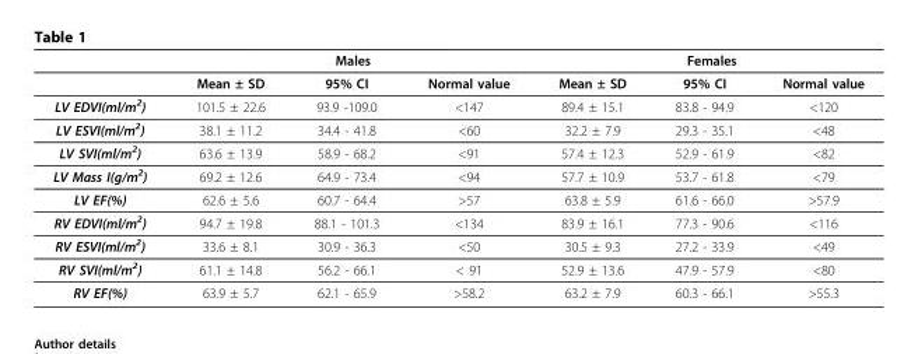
<table><thead><tr><td rowspan="2"></td><td colspan="3">Males</td><td colspan="3">Females</td></tr><tr><td>Mean ± SD</td><td>95% CI</td><td>Normal value</td><td>Mean ± SD</td><td>95% CI</td><td>Normal value</td></tr></thead><tbody><tr><td>LV EDVI(ml/m<sup>2</sup>)</td><td>101.5 ± 22.6</td><td>93.9 -109.0</td><td>&lt;147</td><td>89.4 ± 15.1</td><td>83.8 - 94.9</td><td>&lt;120</td></tr><tr><td>LV ESVI(ml/m<sup>2</sup>)</td><td>38.1 ± 11.2</td><td>34.4 - 41.8</td><td>&lt;60</td><td>32.2 ± 7.9</td><td>29.3 - 35.1</td><td>&lt;48</td></tr><tr><td>LV SVI(ml/m<sup>2</sup>)</td><td>63.6 ± 13.9</td><td>58.9 - 68.2</td><td>&lt;91</td><td>57.4 ± 12.3</td><td>52.9 - 61.9</td><td>&lt;82</td></tr><tr><td>LV Mass I(g/m<sup>2</sup>)</td><td>69.2 ± 12.6</td><td>64.9 - 73.4</td><td>&lt;94</td><td>57.7 ± 10.9</td><td>53.7 - 61.8</td><td>&lt;79</td></tr><tr><td>LV EF(%)</td><td>62.6 ± 5.6</td><td>60.7 - 64.4</td><td>&gt;57</td><td>63.8 ± 5.9</td><td>61.6 - 66.0</td><td>&gt;57.9</td></tr><tr><td>RV EDVI(ml/m<sup>2</sup>)</td><td>94.7 ± 19.8</td><td>88.1 - 101.3</td><td>&lt;134</td><td>83.9 ± 16.1</td><td>77.3 - 90.6</td><td>&lt;116</td></tr><tr><td>RV ESVI(ml/m<sup>2</sup>)</td><td>33.6 ± 8.1</td><td>30.9 - 36.3</td><td>&lt;50</td><td>30.5 ± 9.3</td><td>27.2 - 33.9</td><td>&lt;49</td></tr><tr><td>RV SVI(ml/m<sup>2</sup>)</td><td>61.1 ± 14.8</td><td>56.2 - 66.1</td><td>&lt; 91</td><td>52.9 ± 13.6</td><td>47.9 - 57.9</td><td>&lt;80</td></tr><tr><td>RV EF(%)</td><td>63.9 ± 5.7</td><td>62.1 - 65.9</td><td>&gt;58.2</td><td>63.2 ± 7.9</td><td>60.3 - 66.1</td><td>&gt;55.3</td></tr></tbody></table>